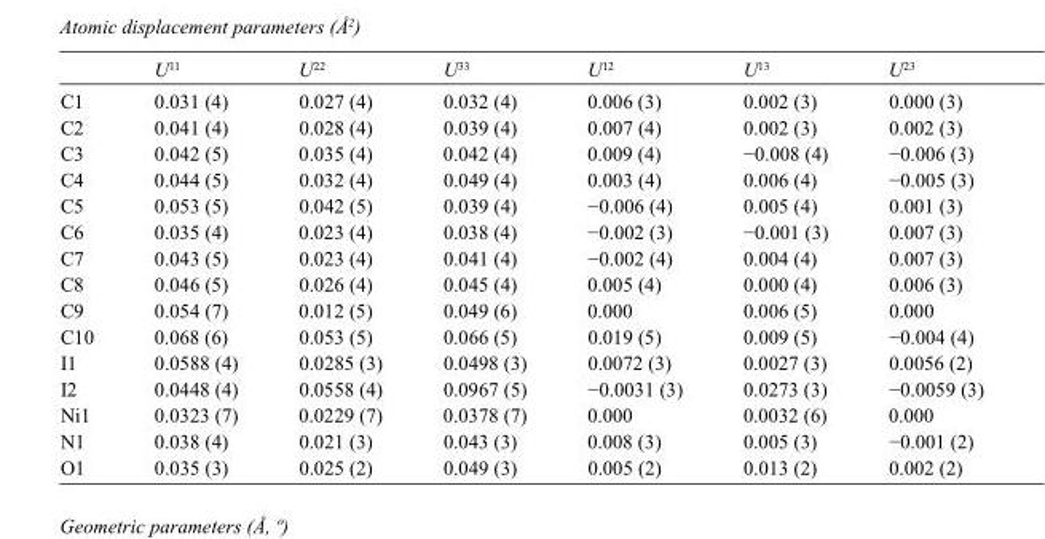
<table><thead><tr><td></td><td>U<sup>11</sup></td><td>U<sup>22</sup></td><td>U<sup>33</sup></td><td>U<sup>12</sup></td><td>U<sup>13</sup></td><td>U<sup>23</sup></td></tr></thead><tbody><tr><td>C1</td><td>0.031 (4)</td><td>0.027 (4)</td><td>0.032 (4)</td><td>0.006 (3)</td><td>0.002 (3)</td><td>0.000 (3)</td></tr><tr><td>C2</td><td>0.041 (4)</td><td>0.028 (4)</td><td>0.039 (4)</td><td>0.007 (4)</td><td>0.002 (3)</td><td>0.002 (3)</td></tr><tr><td>C3</td><td>0.042 (5)</td><td>0.035 (4)</td><td>0.042 (4)</td><td>0.009 (4)</td><td>−0.008 (4)</td><td>−0.006 (3)</td></tr><tr><td>C4</td><td>0.044 (5)</td><td>0.032 (4)</td><td>0.049 (4)</td><td>0.003 (4)</td><td>0.006 (4)</td><td>−0.005 (3)</td></tr><tr><td>C5</td><td>0.053 (5)</td><td>0.042 (5)</td><td>0.039 (4)</td><td>−0.006 (4)</td><td>0.005 (4)</td><td>0.001 (3)</td></tr><tr><td>C6</td><td>0.035 (4)</td><td>0.023 (4)</td><td>0.038 (4)</td><td>−0.002 (3)</td><td>−0.001 (3)</td><td>0.007 (3)</td></tr><tr><td>C7</td><td>0.043 (5)</td><td>0.023 (4)</td><td>0.041 (4)</td><td>−0.002 (4)</td><td>0.004 (4)</td><td>0.007 (3)</td></tr><tr><td>C8</td><td>0.046 (5)</td><td>0.026 (4)</td><td>0.045 (4)</td><td>0.005 (4)</td><td>0.000 (4)</td><td>0.006 (3)</td></tr><tr><td>C9</td><td>0.054 (7)</td><td>0.012 (5)</td><td>0.049 (6)</td><td>0.000</td><td>0.006 (5)</td><td>0.000</td></tr><tr><td>C10</td><td>0.068 (6)</td><td>0.053 (5)</td><td>0.066 (5)</td><td>0.019 (5)</td><td>0.009 (5)</td><td>−0.004 (4)</td></tr><tr><td>I1</td><td>0.0588 (4)</td><td>0.0285 (3)</td><td>0.0498 (3)</td><td>0.0072 (3)</td><td>0.0027 (3)</td><td>0.0056 (2)</td></tr><tr><td>I2</td><td>0.0448 (4)</td><td>0.0558 (4)</td><td>0.0967 (5)</td><td>−0.0031 (3)</td><td>0.0273 (3)</td><td>−0.0059 (3)</td></tr><tr><td>Ni1</td><td>0.0323 (7)</td><td>0.0229 (7)</td><td>0.0378 (7)</td><td>0.000</td><td>0.0032 (6)</td><td>0.000</td></tr><tr><td>N1</td><td>0.038 (4)</td><td>0.021 (3)</td><td>0.043 (3)</td><td>0.008 (3)</td><td>0.005 (3)</td><td>−0.001 (2)</td></tr><tr><td>O1</td><td>0.035 (3)</td><td>0.025 (2)</td><td>0.049 (3)</td><td>0.005 (2)</td><td>0.013 (2)</td><td>0.002 (2)</td></tr></tbody></table>